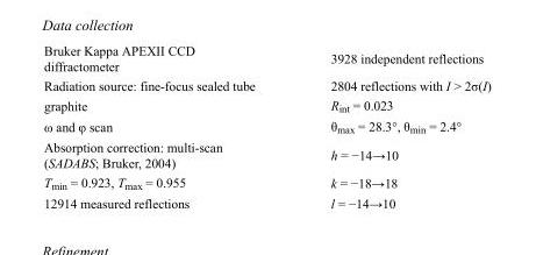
<table><tbody><tr><td>Bruker Kappa APEXII CCD diffractometer</td><td>3928 independent reflections</td></tr><tr><td>Radiation source: fine-focus sealed tube</td><td>2804 reflections with I &gt; 2σ(I)</td></tr><tr><td>graphite</td><td>R<sub>int</sub> = 0.023</td></tr><tr><td>ω and φ scan</td><td>θ<sub>max</sub> = 28.3°, θ<sub>min</sub> = 2.4°</td></tr><tr><td>Absorption correction: multi-scan (SADABS; Bruker, 2004)</td><td>h = −14→10</td></tr><tr><td>T<sub>min</sub> = 0.923, T<sub>max</sub> = 0.955</td><td>k = −18→18</td></tr><tr><td>12914 measured reflections</td><td>l = −14→10</td></tr></tbody></table>